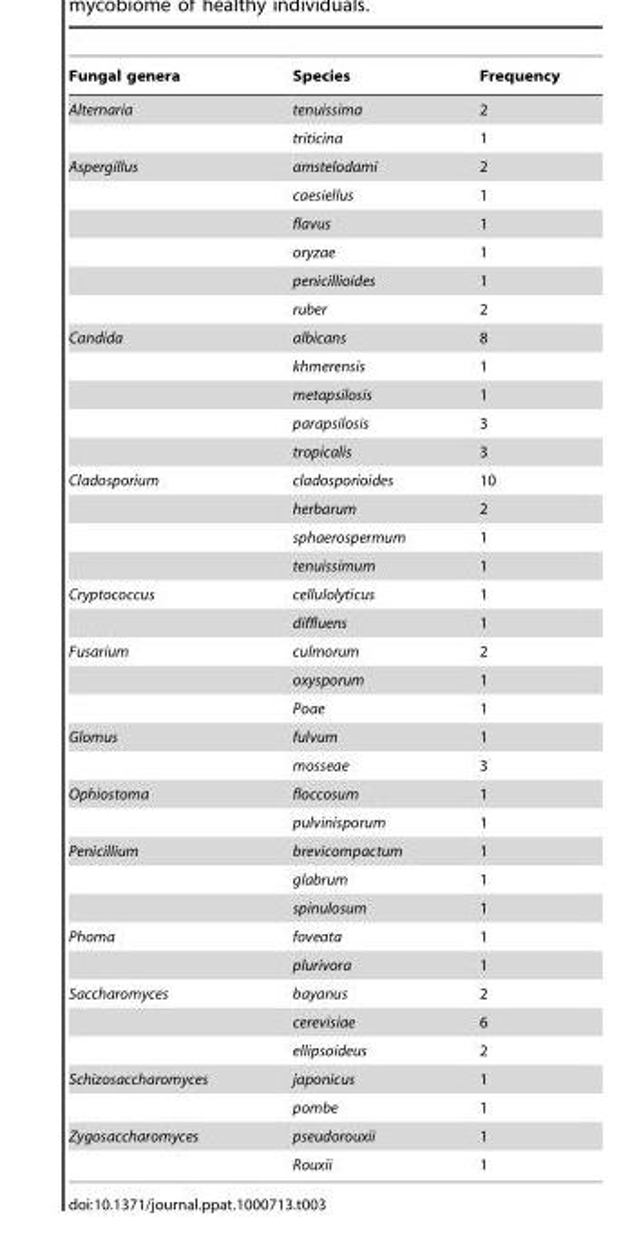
<table><thead><tr><td>Fungal genera</td><td>Species</td><td>Frequency</td></tr></thead><tbody><tr><td rowspan="2">Alternaria</td><td>tenuissima</td><td>2</td></tr><tr><td>triticina</td><td>1</td></tr><tr><td rowspan="6">Aspergillus</td><td>amstelodami</td><td>2</td></tr><tr><td>caesiellus</td><td>1</td></tr><tr><td>flavus</td><td>1</td></tr><tr><td>oryzae</td><td>1</td></tr><tr><td>penicillioides</td><td>1</td></tr><tr><td>ruber</td><td>2</td></tr><tr><td rowspan="5">Candida</td><td>albicans</td><td>8</td></tr><tr><td>khmerensis</td><td>1</td></tr><tr><td>metapsilosis</td><td>1</td></tr><tr><td>parapsilosis</td><td>3</td></tr><tr><td>tropicalis</td><td>3</td></tr><tr><td rowspan="4">Cladosporium</td><td>cladosporioides</td><td>10</td></tr><tr><td>herbarum</td><td>2</td></tr><tr><td>sphaerospermum</td><td>1</td></tr><tr><td>tenuissimum</td><td>1</td></tr><tr><td rowspan="2">Cryptococcus</td><td>cellulolyticus</td><td>1</td></tr><tr><td>diffluens</td><td>1</td></tr><tr><td rowspan="3">Fusarium</td><td>culmorum</td><td>2</td></tr><tr><td>oxysporum</td><td>1</td></tr><tr><td>Poae</td><td>1</td></tr><tr><td rowspan="2">Glomus</td><td>fulvum</td><td>1</td></tr><tr><td>mosseae</td><td>3</td></tr><tr><td rowspan="2">Ophiostoma</td><td>floccosum</td><td>1</td></tr><tr><td>pulvinisporum</td><td>1</td></tr><tr><td rowspan="3">Penicillium</td><td>brevicompactum</td><td>1</td></tr><tr><td>glabrum</td><td>1</td></tr><tr><td>spinulosum</td><td>1</td></tr><tr><td rowspan="2">Phoma</td><td>foveata</td><td>1</td></tr><tr><td>plurivora</td><td>1</td></tr><tr><td rowspan="3">Saccharomyces</td><td>bayanus</td><td>2</td></tr><tr><td>cerevisiae</td><td>6</td></tr><tr><td>ellipsoideus</td><td>2</td></tr><tr><td rowspan="2">Schizosaccharomyces</td><td>japonicus</td><td>1</td></tr><tr><td>pombe</td><td>1</td></tr><tr><td rowspan="2">Zygosaccharomyces</td><td>pseudorouxii</td><td>1</td></tr><tr><td>Rouxii</td><td>1</td></tr></tbody></table>